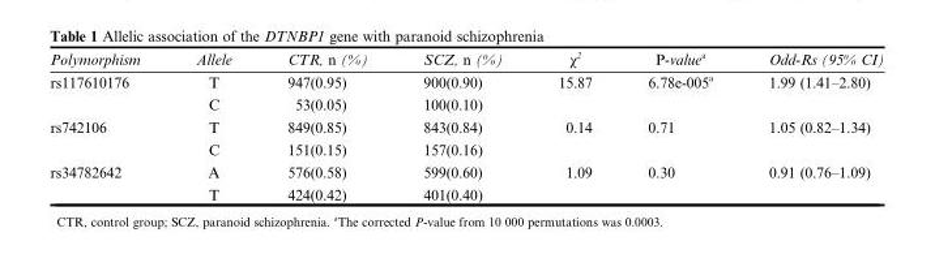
<table><thead><tr><td>Polymorphism</td><td>Allele</td><td>CTR, n (%)</td><td>SCZ, n (%)</td><td>χ<sup>2</sup></td><td>P-valuea</td><td>Odd-Rs (95% CI)</td></tr></thead><tbody><tr><td rowspan="2">rs117610176</td><td>T</td><td>947(0.95)</td><td>900(0.90)</td><td>15.87</td><td>6.78e-005<sup>a</sup></td><td>1.99 (1.41–2.80)</td></tr><tr><td>C</td><td>53(0.05)</td><td>100(0.10)</td><td></td><td></td><td></td></tr><tr><td rowspan="2">rs742106</td><td>T</td><td>849(0.85)</td><td>843(0.84)</td><td>0.14</td><td>0.71</td><td>1.05 (0.82–1.34)</td></tr><tr><td>C</td><td>151(0.15)</td><td>157(0.16)</td><td></td><td></td><td></td></tr><tr><td rowspan="2">rs34782642</td><td>A</td><td>576(0.58)</td><td>599(0.60)</td><td>1.09</td><td>0.30</td><td>0.91 (0.76–1.09)</td></tr><tr><td>T</td><td>424(0.42)</td><td>401(0.40)</td><td></td><td></td><td></td></tr></tbody></table>